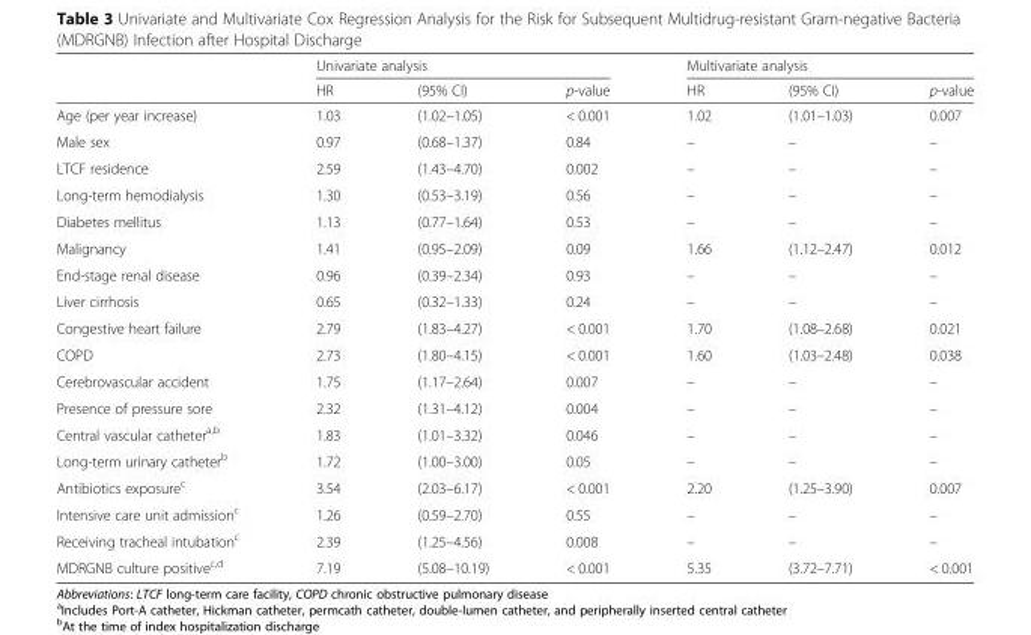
<table><thead><tr><td rowspan="2"></td><td colspan="3">Univariate analysis</td><td colspan="3">Multivariate analysis</td></tr><tr><td>HR</td><td>(95% CI)</td><td>p-value</td><td>HR</td><td>(95% CI)</td><td>p-value</td></tr></thead><tbody><tr><td>Age (per year increase)</td><td>1.03</td><td>(1.02–1.05)</td><td>&lt; 0.001</td><td>1.02</td><td>(1.01–1.03)</td><td>0.007</td></tr><tr><td>Male sex</td><td>0.97</td><td>(0.68–1.37)</td><td>0.84</td><td>–</td><td>–</td><td>–</td></tr><tr><td>LTCF residence</td><td>2.59</td><td>(1.43–4.70)</td><td>0.002</td><td>–</td><td>–</td><td>–</td></tr><tr><td>Long-term hemodialysis</td><td>1.30</td><td>(0.53–3.19)</td><td>0.56</td><td>–</td><td>–</td><td>–</td></tr><tr><td>Diabetes mellitus</td><td>1.13</td><td>(0.77–1.64)</td><td>0.53</td><td>–</td><td>–</td><td>–</td></tr><tr><td>Malignancy</td><td>1.41</td><td>(0.95–2.09)</td><td>0.09</td><td>1.66</td><td>(1.12–2.47)</td><td>0.012</td></tr><tr><td>End-stage renal disease</td><td>0.96</td><td>(0.39–2.34)</td><td>0.93</td><td>–</td><td>–</td><td>–</td></tr><tr><td>Liver cirrhosis</td><td>0.65</td><td>(0.32–1.33)</td><td>0.24</td><td>–</td><td>–</td><td>–</td></tr><tr><td>Congestive heart failure</td><td>2.79</td><td>(1.83–4.27)</td><td>&lt; 0.001</td><td>1.70</td><td>(1.08–2.68)</td><td>0.021</td></tr><tr><td>COPD</td><td>2.73</td><td>(1.80–4.15)</td><td>&lt; 0.001</td><td>1.60</td><td>(1.03–2.48)</td><td>0.038</td></tr><tr><td>Cerebrovascular accident</td><td>1.75</td><td>(1.17–2.64)</td><td>0.007</td><td>–</td><td>–</td><td>–</td></tr><tr><td>Presence of pressure sore</td><td>2.32</td><td>(1.31–4.12)</td><td>0.004</td><td>–</td><td>–</td><td>–</td></tr><tr><td>Central vascular catheter<sup>a,b</sup></td><td>1.83</td><td>(1.01–3.32)</td><td>0.046</td><td>–</td><td>–</td><td>–</td></tr><tr><td>Long-term urinary catheter<sup>b</sup></td><td>1.72</td><td>(1.00–3.00)</td><td>0.05</td><td>–</td><td>–</td><td>–</td></tr><tr><td>Antibiotics exposure<sup>c</sup></td><td>3.54</td><td>(2.03–6.17)</td><td>&lt; 0.001</td><td>2.20</td><td>(1.25–3.90)</td><td>0.007</td></tr><tr><td>Intensive care unit admission<sup>c</sup></td><td>1.26</td><td>(0.59–2.70)</td><td>0.55</td><td>–</td><td>–</td><td>–</td></tr><tr><td>Receiving tracheal intubation<sup>c</sup></td><td>2.39</td><td>(1.25–4.56)</td><td>0.008</td><td>–</td><td>–</td><td>–</td></tr><tr><td>MDRGNB culture positive<sup>c,d</sup></td><td>7.19</td><td>(5.08–10.19)</td><td>&lt; 0.001</td><td>5.35</td><td>(3.72–7.71)</td><td>&lt; 0.001</td></tr></tbody></table>